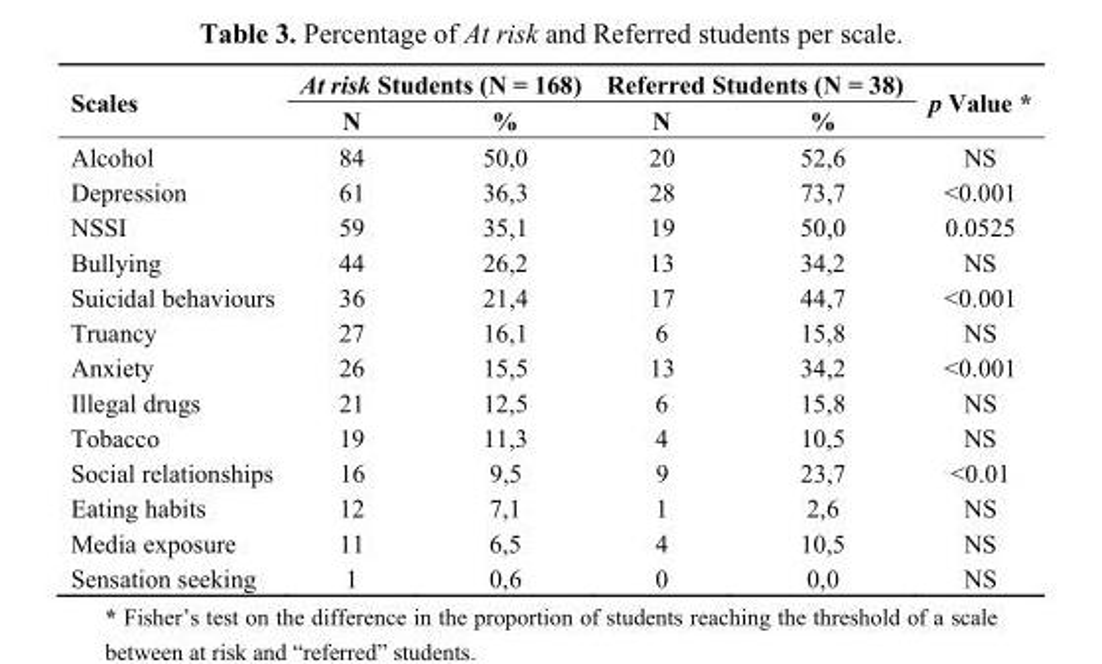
<table><thead><tr><td rowspan="2">Scales</td><td colspan="2">At risk Students (N = 168)</td><td colspan="2">Referred Students (N = 38)</td><td rowspan="2">p Value *</td></tr><tr><td>N</td><td>%</td><td>N</td><td>%</td></tr></thead><tbody><tr><td>Alcohol</td><td>84</td><td>50,0</td><td>20</td><td>52,6</td><td>NS</td></tr><tr><td>Depression</td><td>61</td><td>36,3</td><td>28</td><td>73,7</td><td>&lt;0.001</td></tr><tr><td>NSSI</td><td>59</td><td>35,1</td><td>19</td><td>50,0</td><td>0.0525</td></tr><tr><td>Bullying</td><td>44</td><td>26,2</td><td>13</td><td>34,2</td><td>NS</td></tr><tr><td>Suicidal behaviours</td><td>36</td><td>21,4</td><td>17</td><td>44,7</td><td>&lt;0.001</td></tr><tr><td>Truancy</td><td>27</td><td>16,1</td><td>6</td><td>15,8</td><td>NS</td></tr><tr><td>Anxiety</td><td>26</td><td>15,5</td><td>13</td><td>34,2</td><td>&lt;0.001</td></tr><tr><td>Illegal drugs</td><td>21</td><td>12,5</td><td>6</td><td>15,8</td><td>NS</td></tr><tr><td>Tobacco</td><td>19</td><td>11,3</td><td>4</td><td>10,5</td><td>NS</td></tr><tr><td>Social relationships</td><td>16</td><td>9,5</td><td>9</td><td>23,7</td><td>&lt;0.01</td></tr><tr><td>Eating habits</td><td>12</td><td>7,1</td><td>1</td><td>2,6</td><td>NS</td></tr><tr><td>Media exposure</td><td>11</td><td>6,5</td><td>4</td><td>10,5</td><td>NS</td></tr><tr><td>Sensation seeking</td><td>1</td><td>0,6</td><td>0</td><td>0,0</td><td>NS</td></tr></tbody></table>